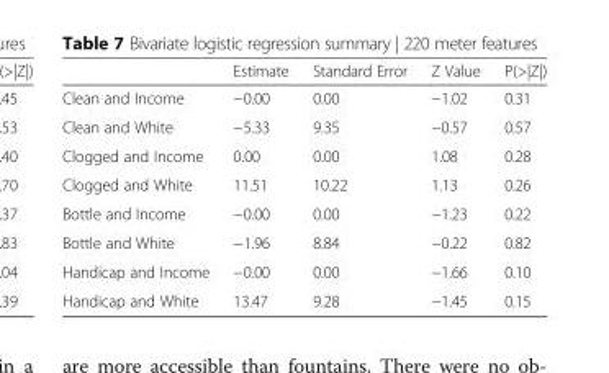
<table><thead><tr><td></td><td>Estimate</td><td>Standard Error</td><td>Z Value</td><td>P(&gt;|Z|)</td></tr></thead><tbody><tr><td>Clean and Income</td><td>−0.00</td><td>0.00</td><td>−1.02</td><td>0.31</td></tr><tr><td>Clean and White</td><td>−5.33</td><td>9.35</td><td>−0.57</td><td>0.57</td></tr><tr><td>Clogged and Income</td><td>0.00</td><td>0.00</td><td>1.08</td><td>0.28</td></tr><tr><td>Clogged and White</td><td>11.51</td><td>10.22</td><td>1.13</td><td>0.26</td></tr><tr><td>Bottle and Income</td><td>−0.00</td><td>0.00</td><td>−1.23</td><td>0.22</td></tr><tr><td>Bottle and White</td><td>−1.96</td><td>8.84</td><td>−0.22</td><td>0.82</td></tr><tr><td>Handicap and Income</td><td>−0.00</td><td>0.00</td><td>−1.66</td><td>0.10</td></tr><tr><td>Handicap and White</td><td>13.47</td><td>9.28</td><td>−1.45</td><td>0.15</td></tr></tbody></table>